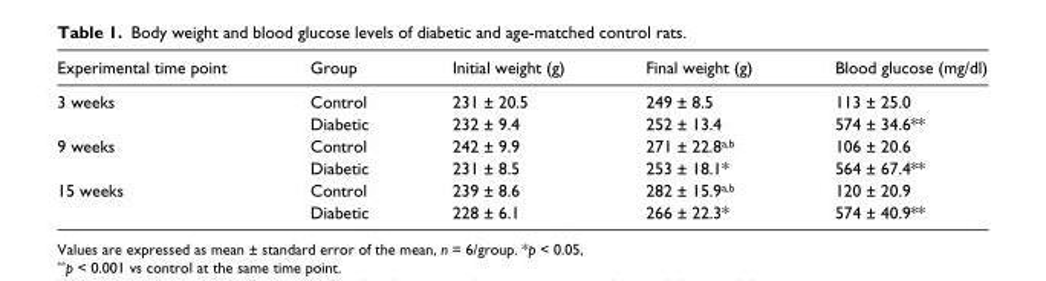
<table><thead><tr><td>Experimental time point</td><td>Group</td><td>Initial weight (g)</td><td>Final weight (g)</td><td>Blood glucose (mg/dl)</td></tr></thead><tbody><tr><td rowspan="2">3 weeks</td><td>Control</td><td>231 ± 20.5</td><td>249 ± 8.5</td><td>113 ± 25.0</td></tr><tr><td>Diabetic</td><td>232 ± 9.4</td><td>252 ± 13.4</td><td>574 ± 34.6**</td></tr><tr><td rowspan="2">9 weeks</td><td>Control</td><td>242 ± 9.9</td><td>271 ± 22.8<sup>a</sup>,<sup>b</sup></td><td>106 ± 20.6</td></tr><tr><td>Diabetic</td><td>231 ± 8.5</td><td>253 ± 18.1*</td><td>564 ± 67.4**</td></tr><tr><td rowspan="2">15 weeks</td><td>Control</td><td>239 ± 8.6</td><td>282 ± 15.9<sup>a</sup>,<sup>b</sup></td><td>120 ± 20.9</td></tr><tr><td>Diabetic</td><td>228 ± 6.1</td><td>266 ± 22.3*</td><td>574 ± 40.9**</td></tr></tbody></table>